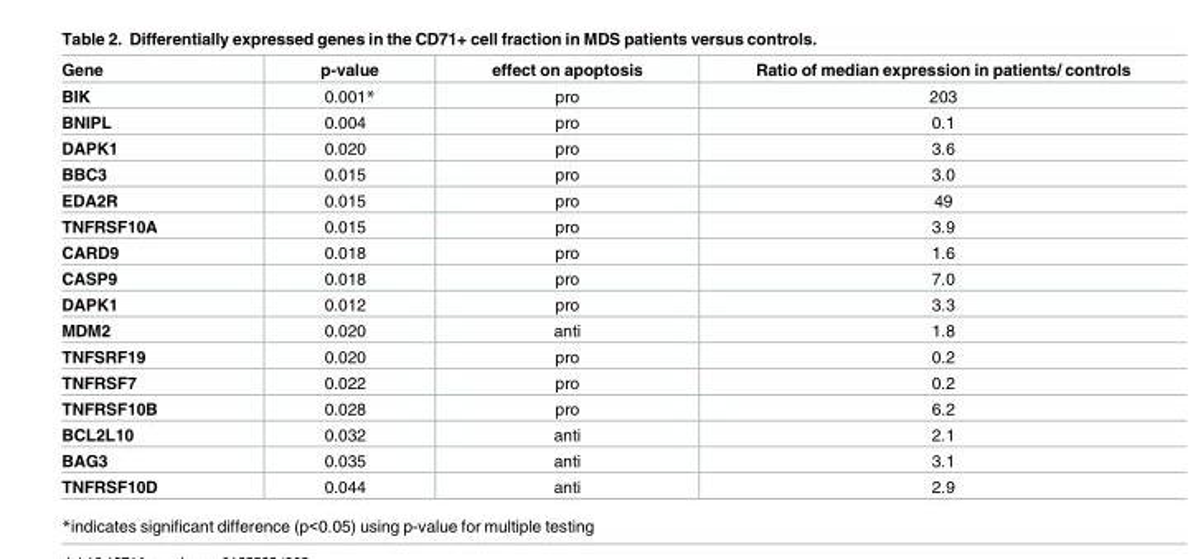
<table><thead><tr><td>Gene</td><td>p-value</td><td>effect on apoptosis</td><td>Ratio of median expression in patients/ controls</td></tr></thead><tbody><tr><td>BIK</td><td>0.001*</td><td>pro</td><td>203</td></tr><tr><td>BNIPL</td><td>0.004</td><td>pro</td><td>0.1</td></tr><tr><td>DAPK1</td><td>0.020</td><td>pro</td><td>3.6</td></tr><tr><td>BBC3</td><td>0.015</td><td>pro</td><td>3.0</td></tr><tr><td>EDA2R</td><td>0.015</td><td>pro</td><td>49</td></tr><tr><td>TNFRSF10A</td><td>0.015</td><td>pro</td><td>3.9</td></tr><tr><td>CARD9</td><td>0.018</td><td>pro</td><td>1.6</td></tr><tr><td>CASP9</td><td>0.018</td><td>pro</td><td>7.0</td></tr><tr><td>DAPK1</td><td>0.012</td><td>pro</td><td>3.3</td></tr><tr><td>MDM2</td><td>0.020</td><td>anti</td><td>1.8</td></tr><tr><td>TNFSRF19</td><td>0.020</td><td>pro</td><td>0.2</td></tr><tr><td>TNFRSF7</td><td>0.022</td><td>pro</td><td>0.2</td></tr><tr><td>TNFRSF10B</td><td>0.028</td><td>pro</td><td>6.2</td></tr><tr><td>BCL2L10</td><td>0.032</td><td>anti</td><td>2.1</td></tr><tr><td>BAG3</td><td>0.035</td><td>anti</td><td>3.1</td></tr><tr><td>TNFRSF10D</td><td>0.044</td><td>anti</td><td>2.9</td></tr></tbody></table>